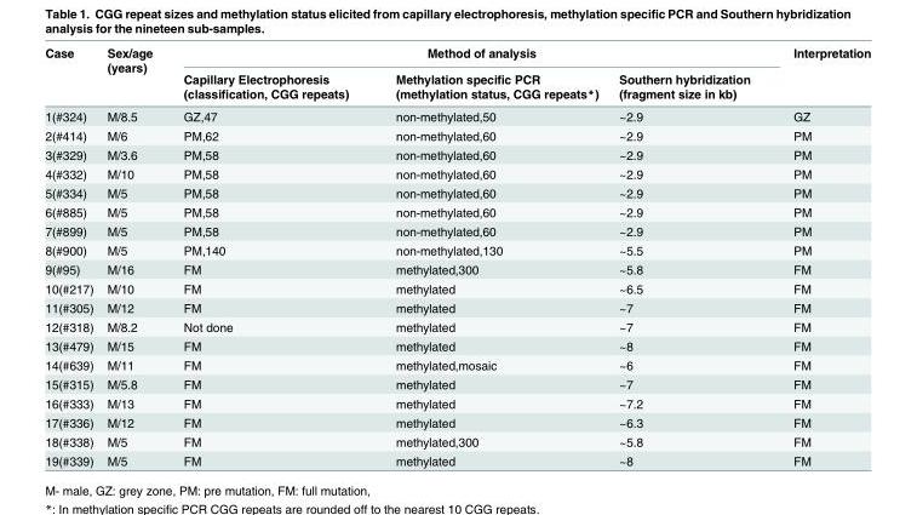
<table><thead><tr><td rowspan="2">Case</td><td rowspan="2">Sex/age (years)</td><td colspan="3">Method of analysis</td><td rowspan="2">Interpretation</td></tr><tr><td>Capillary Electrophoresis (classification, CGG repeats)</td><td>Methylation specific PCR (methylation status, CGG repeats*)</td><td>Southern hybridization (fragment size in kb)</td></tr></thead><tbody><tr><td>1(#324)</td><td>M/8.5</td><td>GZ,47</td><td>non-methylated,50</td><td>~2.9</td><td>GZ</td></tr><tr><td>2(#414)</td><td>M/6</td><td>PM,62</td><td>non-methylated,60</td><td>~2.9</td><td>PM</td></tr><tr><td>3(#329)</td><td>M/3.6</td><td>PM,58</td><td>non-methylated,60</td><td>~2.9</td><td>PM</td></tr><tr><td>4(#332)</td><td>M/10</td><td>PM,58</td><td>non-methylated,60</td><td>~2.9</td><td>PM</td></tr><tr><td>5(#334)</td><td>M/5</td><td>PM,58</td><td>non-methylated,60</td><td>~2.9</td><td>PM</td></tr><tr><td>6(#885)</td><td>M/5</td><td>PM,58</td><td>non-methylated,60</td><td>~2.9</td><td>PM</td></tr><tr><td>7(#899)</td><td>M/5</td><td>PM,58</td><td>non-methylated,60</td><td>~2.9</td><td>PM</td></tr><tr><td>8(#900)</td><td>M/5</td><td>PM,140</td><td>non-methylated,130</td><td>~5.5</td><td>PM</td></tr><tr><td>9(#95)</td><td>M/16</td><td>FM</td><td>methylated,300</td><td>~5.8</td><td>FM</td></tr><tr><td>10(#217)</td><td>M/10</td><td>FM</td><td>methylated</td><td>~6.5</td><td>FM</td></tr><tr><td>11(#305)</td><td>M/12</td><td>FM</td><td>methylated</td><td>~7</td><td>FM</td></tr><tr><td>12(#318)</td><td>M/8.2</td><td>Not done</td><td>methylated</td><td>~7</td><td>FM</td></tr><tr><td>13(#479)</td><td>M/15</td><td>FM</td><td>methylated</td><td>~8</td><td>FM</td></tr><tr><td>14(#639)</td><td>M/11</td><td>FM</td><td>methylated,mosaic</td><td>~6</td><td>FM</td></tr><tr><td>15(#315)</td><td>M/5.8</td><td>FM</td><td>methylated</td><td>~7</td><td>FM</td></tr><tr><td>16(#333)</td><td>M/13</td><td>FM</td><td>methylated</td><td>~7.2</td><td>FM</td></tr><tr><td>17(#336)</td><td>M/12</td><td>FM</td><td>methylated</td><td>~6.3</td><td>FM</td></tr><tr><td>18(#338)</td><td>M/5</td><td>FM</td><td>methylated,300</td><td>~5.8</td><td>FM</td></tr><tr><td>19(#339)</td><td>M/5</td><td>FM</td><td>methylated</td><td>~8</td><td>FM</td></tr></tbody></table>